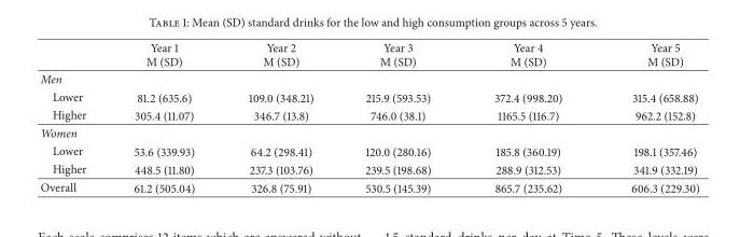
<table><thead><tr><td></td><td>Year 1 M (SD)</td><td>Year 2 M (SD)</td><td>Year 3 M (SD)</td><td>Year 4 M (SD)</td><td>Year 5 M (SD)</td></tr></thead><tbody><tr><td colspan="6">Men</td></tr><tr><td>Lower</td><td>81.2 (635.6)</td><td>109.0 (348.21)</td><td>215.9 (593.53)</td><td>372.4 (998.20)</td><td>315.4 (658.88)</td></tr><tr><td>Higher</td><td>305.4 (11.07)</td><td>346.7 (13.8)</td><td>746.0 (38.1)</td><td>1165.5 (116.7)</td><td>962.2 (152.8)</td></tr><tr><td colspan="6">Women</td></tr><tr><td>Lower</td><td>53.6 (339.93)</td><td>64.2 (298.41)</td><td>120.0 (280.16)</td><td>185.8 (360.19)</td><td>198.1 (357.46)</td></tr><tr><td>Higher</td><td>448.5 (11.80)</td><td>237.3 (103.76)</td><td>239.5 (198.68)</td><td>288.9 (312.53)</td><td>341.9 (332.19)</td></tr><tr><td>Overall</td><td>61.2 (505.04)</td><td>326.8 (75.91)</td><td>530.5 (145.39)</td><td>865.7 (235.62)</td><td>606.3 (229.30)</td></tr></tbody></table>